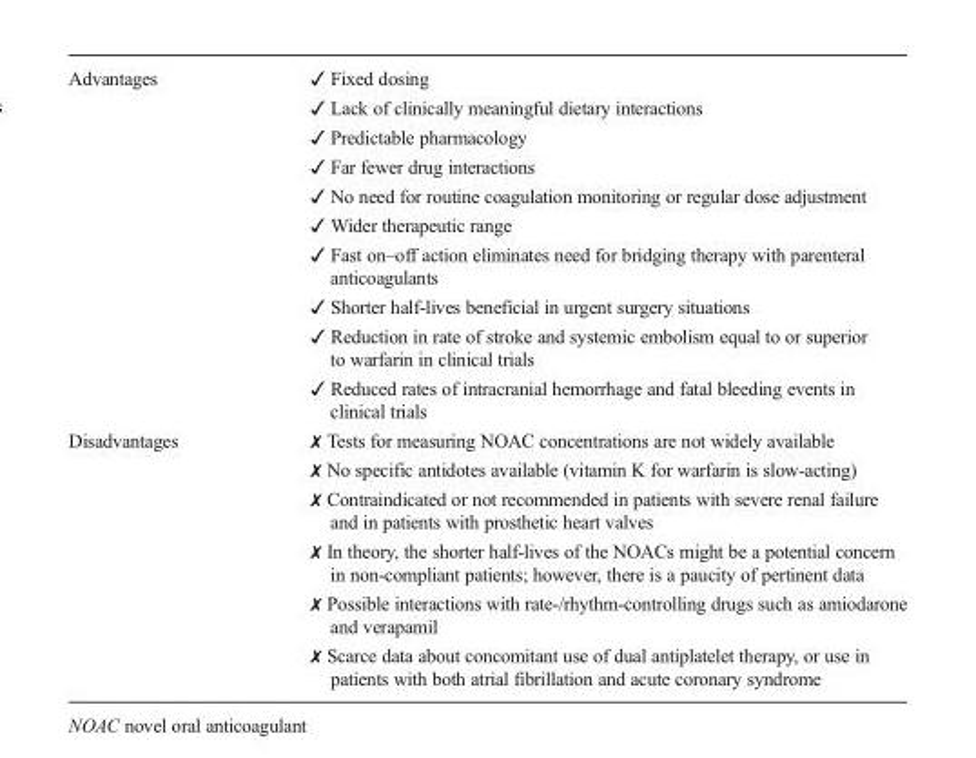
<table><tbody><tr><td>Advantages</td><td>✓ Fixed dosing ✓ Lack of clinically meaningful dietary interactions ✓ Predictable pharmacology ✓ Far fewer drug interactions ✓ No need for routine coagulation monitoring or regular dose adjustment ✓ Wider therapeutic range ✓ Fast on–off action eliminates need for bridging therapy with parenteral anticoagulants ✓ Shorter half-lives beneficial in urgent surgery situations ✓ Reduction in rate of stroke and systemic embolism equal to or superior to warfarin in clinical trials ✓ Reduced rates of intracranial hemorrhage and fatal bleeding events in clinical trials</td></tr><tr><td>Disadvantages</td><td>✗ Tests for measuring NOAC concentrations are not widely available ✗ No specific antidotes available (vitamin K for warfarin is slow-acting) ✗ Contraindicated or not recommended in patients with severe renal failure and in patients with prosthetic heart valves ✗ In theory, the shorter half-lives of the NOACs might be a potential concern in non-compliant patients; however, there is a paucity of pertinent data ✗ Possible interactions with rate-/rhythm-controlling drugs such as amiodarone and verapamil ✗ Scarce data about concomitant use of dual antiplatelet therapy, or use in patients with both atrial fibrillation and acute coronary syndrome</td></tr></tbody></table>